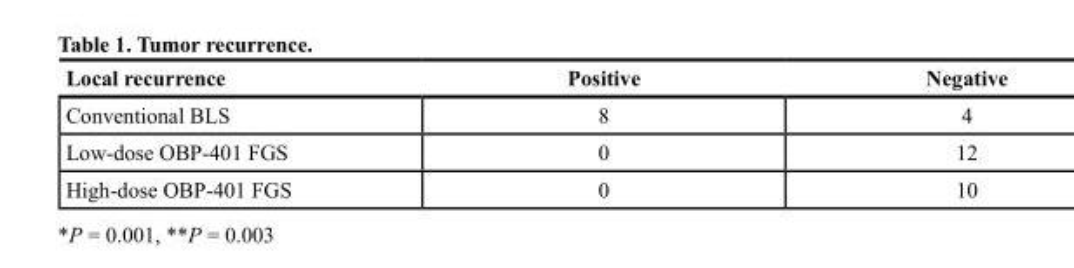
<table><thead><tr><td>Local recurrence</td><td>Positive</td><td>Negative</td></tr></thead><tbody><tr><td>Conventional BLS</td><td>8</td><td>4</td></tr><tr><td>Low-dose OBP-401 FGS</td><td>0</td><td>12</td></tr><tr><td>High-dose OBP-401 FGS</td><td>0</td><td>10</td></tr></tbody></table>